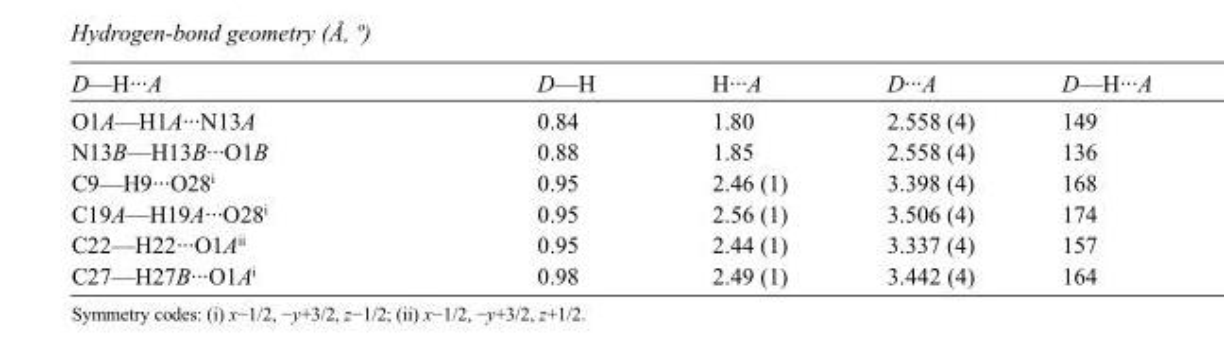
<table><tbody><tr><td>D—H···A</td><td>D—H</td><td>H···A</td><td>D···A</td><td>D—H···A</td></tr><tr><td>O1A—H1A···N13A</td><td>0.84</td><td>1.80</td><td>2.558 (4)</td><td>149</td></tr><tr><td>N13B—H13B···O1B</td><td>0.88</td><td>1.85</td><td>2.558 (4)</td><td>136</td></tr><tr><td>C9—H9···O28<sup>i</sup></td><td>0.95</td><td>2.46 (1)</td><td>3.398 (4)</td><td>168</td></tr><tr><td>C19A—H19A···O28<sup>i</sup></td><td>0.95</td><td>2.56 (1)</td><td>3.506 (4)</td><td>174</td></tr><tr><td>C22—H22···O1A<sup>ii</sup></td><td>0.95</td><td>2.44 (1)</td><td>3.337 (4)</td><td>157</td></tr><tr><td>C27—H27B···O1A<sup>i</sup></td><td>0.98</td><td>2.49 (1)</td><td>3.442 (4)</td><td>164</td></tr></tbody></table>